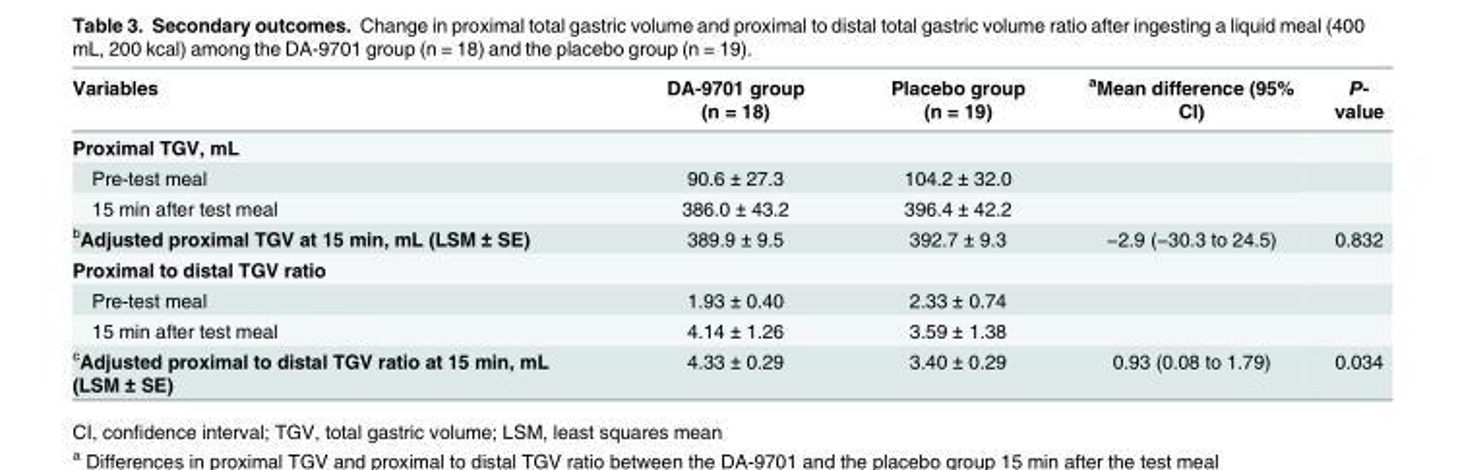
<table><thead><tr><td>Variables</td><td>DA-9701 group (n = 18)</td><td>Placebo group (n = 19)</td><td><sup>a</sup>Mean difference (95% CI)</td><td>P- value</td></tr></thead><tbody><tr><td colspan="5">Proximal TGV, mL</td></tr><tr><td>Pre-test meal</td><td>90.6 ± 27.3</td><td>104.2 ± 32.0</td><td></td><td></td></tr><tr><td>15 min after test meal</td><td>386.0 ± 43.2</td><td>396.4 ± 42.2</td><td></td><td></td></tr><tr><td><sup>b</sup>Adjusted proximal TGV at 15 min, mL (LSM ± SE)</td><td>389.9 ± 9.5</td><td>392.7 ± 9.3</td><td>−2.9 (−30.3 to 24.5)</td><td>0.832</td></tr><tr><td colspan="5">Proximal to distal TGV ratio</td></tr><tr><td>Pre-test meal</td><td>1.93 ± 0.40</td><td>2.33 ± 0.74</td><td></td><td></td></tr><tr><td>15 min after test meal</td><td>4.14 ± 1.26</td><td>3.59 ± 1.38</td><td></td><td></td></tr><tr><td><sup>c</sup>Adjusted proximal to distal TGV ratio at 15 min, mL (LSM ± SE)</td><td>4.33 ± 0.29</td><td>3.40 ± 0.29</td><td>0.93 (0.08 to 1.79)</td><td>0.034</td></tr></tbody></table>